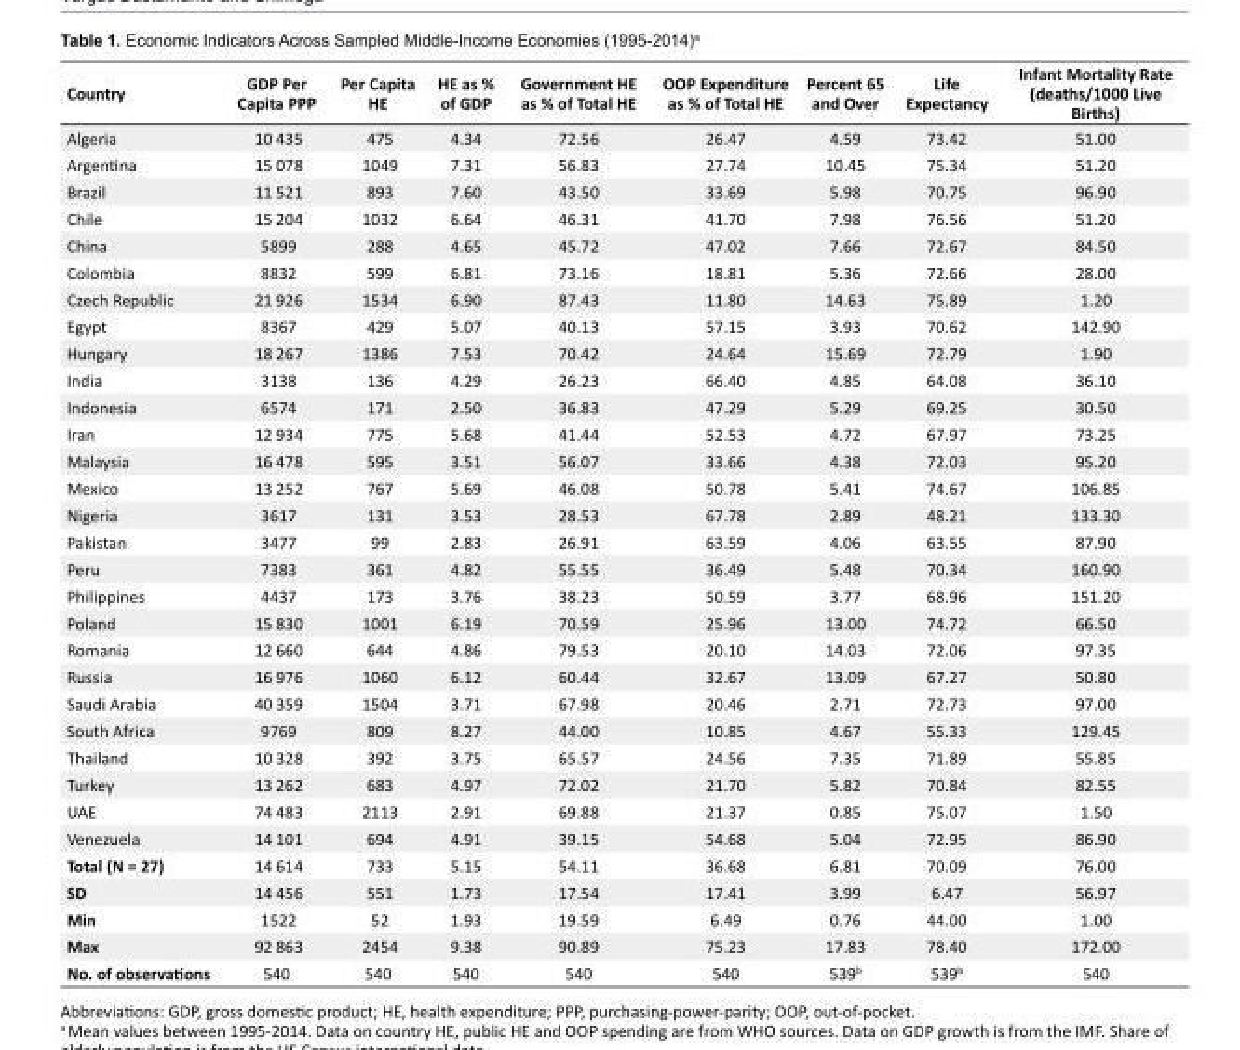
<table><tbody><tr><td>Country</td><td>GDP Per Capita PPP</td><td>Per Capita HE</td><td>HE as % of GDP</td><td>Government HE as % of Total HE</td><td>OOP Expenditure as % of Total HE</td><td>Percent 65 and Over</td><td>Life Expectancy</td><td>Infant Mortality Rate (deaths/1000 Live Births)</td></tr><tr><td>Algeria</td><td>10 435</td><td>475</td><td>4.34</td><td>72.56</td><td>26.47</td><td>4.59</td><td>73.42</td><td>51.00</td></tr><tr><td>Argentina</td><td>15 078</td><td>1049</td><td>7.31</td><td>56.83</td><td>27.74</td><td>10.45</td><td>75.34</td><td>51.20</td></tr><tr><td>Brazil</td><td>11 521</td><td>893</td><td>7.60</td><td>43.50</td><td>33.69</td><td>5.98</td><td>70.75</td><td>96.90</td></tr><tr><td>Chile</td><td>15 204</td><td>1032</td><td>6.64</td><td>46.31</td><td>41.70</td><td>7.98</td><td>76.56</td><td>51.20</td></tr><tr><td>China</td><td>5899</td><td>288</td><td>4.65</td><td>45.72</td><td>47.02</td><td>7.66</td><td>72.67</td><td>84.50</td></tr><tr><td>Colombia</td><td>8832</td><td>599</td><td>6.81</td><td>73.16</td><td>18.81</td><td>5.36</td><td>72.66</td><td>28.00</td></tr><tr><td>Czech Republic</td><td>21 926</td><td>1534</td><td>6.90</td><td>87.43</td><td>11.80</td><td>14.63</td><td>75.89</td><td>1.20</td></tr><tr><td>Egypt</td><td>8367</td><td>429</td><td>5.07</td><td>40.13</td><td>57.15</td><td>3.93</td><td>70.62</td><td>142.90</td></tr><tr><td>Hungary</td><td>18 267</td><td>1386</td><td>7.53</td><td>70.42</td><td>24.64</td><td>15.69</td><td>72.79</td><td>1.90</td></tr><tr><td>India</td><td>3138</td><td>136</td><td>4.29</td><td>26.23</td><td>66.40</td><td>4.85</td><td>64.08</td><td>36.10</td></tr><tr><td>Indonesia</td><td>6574</td><td>171</td><td>2.50</td><td>36.83</td><td>47.29</td><td>5.29</td><td>69.25</td><td>30.50</td></tr><tr><td>Iran</td><td>12 934</td><td>775</td><td>5.68</td><td>41.44</td><td>52.53</td><td>4.72</td><td>67.97</td><td>73.25</td></tr><tr><td>Malaysia</td><td>16 478</td><td>595</td><td>3.51</td><td>56.07</td><td>33.66</td><td>4.38</td><td>72.03</td><td>95.20</td></tr><tr><td>Mexico</td><td>13 252</td><td>767</td><td>5.69</td><td>46.08</td><td>50.78</td><td>5.41</td><td>74.67</td><td>106.85</td></tr><tr><td>Nigeria</td><td>3617</td><td>131</td><td>3.53</td><td>28.53</td><td>67.78</td><td>2.89</td><td>48.21</td><td>133.30</td></tr><tr><td>Pakistan</td><td>3477</td><td>99</td><td>2.83</td><td>26.91</td><td>63.59</td><td>4.06</td><td>63.55</td><td>87.90</td></tr><tr><td>Peru</td><td>7383</td><td>361</td><td>4.82</td><td>55.55</td><td>36.49</td><td>5.48</td><td>70.34</td><td>160.90</td></tr><tr><td>Philippines</td><td>4437</td><td>173</td><td>3.76</td><td>38.23</td><td>50.59</td><td>3.77</td><td>68.96</td><td>151.20</td></tr><tr><td>Poland</td><td>15 830</td><td>1001</td><td>6.19</td><td>70.59</td><td>25.96</td><td>13.00</td><td>74.72</td><td>66.50</td></tr><tr><td>Romania</td><td>12 660</td><td>644</td><td>4.86</td><td>79.53</td><td>20.10</td><td>14.03</td><td>72.06</td><td>97.35</td></tr><tr><td>Russia</td><td>16 976</td><td>1060</td><td>6.12</td><td>60.44</td><td>32.67</td><td>13.09</td><td>67.27</td><td>50.80</td></tr><tr><td>Saudi Arabia</td><td>40 359</td><td>1504</td><td>3.71</td><td>67.98</td><td>20.46</td><td>2.71</td><td>72.73</td><td>97.00</td></tr><tr><td>South Africa</td><td>9769</td><td>809</td><td>8.27</td><td>44.00</td><td>10.85</td><td>4.67</td><td>55.33</td><td>129.45</td></tr><tr><td>Thailand</td><td>10 328</td><td>392</td><td>3.75</td><td>65.57</td><td>24.56</td><td>7.35</td><td>71.89</td><td>55.85</td></tr><tr><td>Turkey</td><td>13 262</td><td>683</td><td>4.97</td><td>72.02</td><td>21.70</td><td>5.82</td><td>70.84</td><td>82.55</td></tr><tr><td>UAE</td><td>74 483</td><td>2113</td><td>2.91</td><td>69.88</td><td>21.37</td><td>0.85</td><td>75.07</td><td>1.50</td></tr><tr><td>Venezuela</td><td>14 101</td><td>694</td><td>4.91</td><td>39.15</td><td>54.68</td><td>5.04</td><td>72.95</td><td>86.90</td></tr><tr><td>Total (N = 27)</td><td>14 614</td><td>733</td><td>5.15</td><td>54.11</td><td>36.68</td><td>6.81</td><td>70.09</td><td>76.00</td></tr><tr><td>SD</td><td>14 456</td><td>551</td><td>1.73</td><td>17.54</td><td>17.41</td><td>3.99</td><td>6.47</td><td>56.97</td></tr><tr><td>Min</td><td>1522</td><td>52</td><td>1.93</td><td>19.59</td><td>6.49</td><td>0.76</td><td>44.00</td><td>1.00</td></tr><tr><td>Max</td><td>92 863</td><td>2454</td><td>9.38</td><td>90.89</td><td>75.23</td><td>17.83</td><td>78.40</td><td>172.00</td></tr><tr><td>No. of observations</td><td>540</td><td>540</td><td>540</td><td>540</td><td>540</td><td>539<sup>b</sup></td><td>539<sup>b</sup></td><td>540</td></tr></tbody></table>